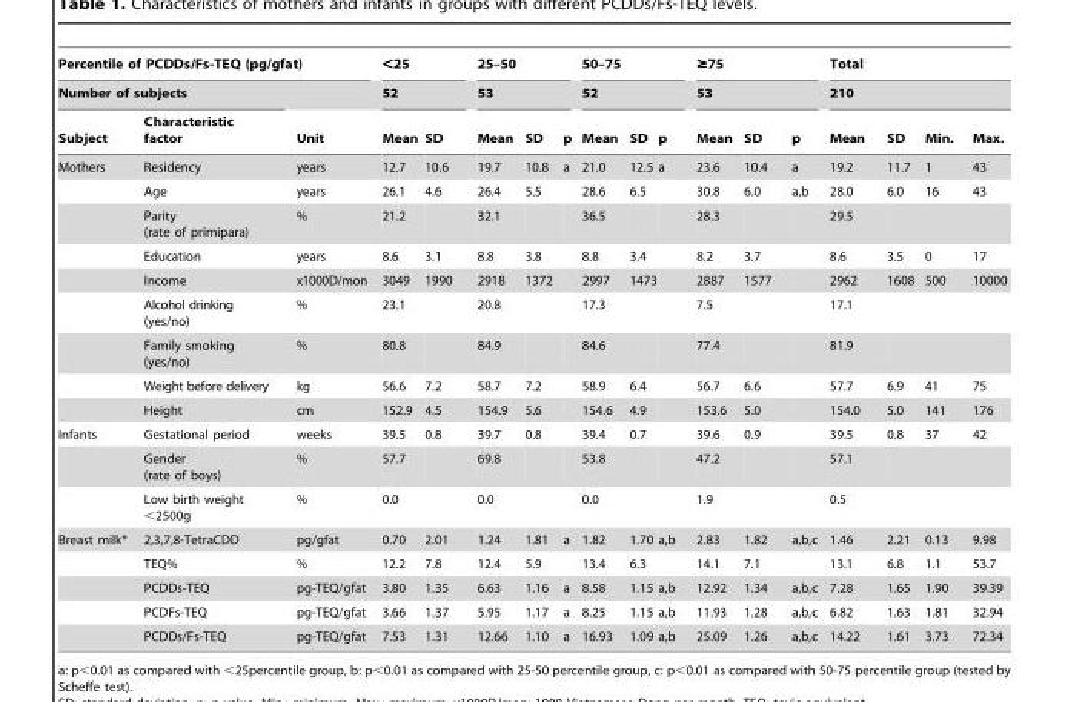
<table><thead><tr><td colspan="3">Percentile of PCDDs/Fs-TEQ (pg/gfat)</td><td rowspan="2" colspan="2">&lt;25 52</td><td rowspan="2" colspan="3">25–50 53</td><td rowspan="2" colspan="3">50–75 52</td><td rowspan="2" colspan="3">≥75 53</td><td rowspan="2" colspan="4">Total 210</td></tr><tr><td colspan="2">Number of subjects</td><td rowspan="2">Unit</td></tr><tr><td>Subject</td><td>Characteristic factor</td><td>Mean</td><td>SD</td><td>Mean</td><td>SD</td><td>p</td><td>Mean</td><td>SD</td><td>p</td><td>Mean</td><td>SD</td><td>p</td><td>Mean</td><td>SD</td><td>Min.</td><td>Max.</td></tr></thead><tbody><tr><td rowspan="9">Mothers</td><td>Residency</td><td>years</td><td>12.7</td><td>10.6</td><td>19.7</td><td>10.8</td><td>a</td><td>21.0</td><td>12.5</td><td>a</td><td>23.6</td><td>10.4</td><td>a</td><td>19.2</td><td>11.7</td><td>1</td><td>43</td></tr><tr><td>Age</td><td>years</td><td>26.1</td><td>4.6</td><td>26.4</td><td>5.5</td><td></td><td>28.6</td><td>6.5</td><td></td><td>30.8</td><td>6.0</td><td>a,b</td><td>28.0</td><td>6.0</td><td>16</td><td>43</td></tr><tr><td>Parity (rate of primipara)</td><td>%</td><td>21.2</td><td></td><td>32.1</td><td></td><td></td><td>36.5</td><td></td><td></td><td>28.3</td><td></td><td></td><td>29.5</td><td></td><td></td><td></td></tr><tr><td>Education</td><td>years</td><td>8.6</td><td>3.1</td><td>8.8</td><td>3.8</td><td></td><td>8.8</td><td>3.4</td><td></td><td>8.2</td><td>3.7</td><td></td><td>8.6</td><td>3.5</td><td>0</td><td>17</td></tr><tr><td>Income</td><td>x1000D/mon</td><td>3049</td><td>1990</td><td>2918</td><td>1372</td><td></td><td>2997</td><td>1473</td><td></td><td>2887</td><td>1577</td><td></td><td>2962</td><td>1608</td><td>500</td><td>10000</td></tr><tr><td>Alcohol drinking (yes/no)</td><td>%</td><td>23.1</td><td></td><td>20.8</td><td></td><td></td><td>17.3</td><td></td><td></td><td>7.5</td><td></td><td></td><td>17.1</td><td></td><td></td><td></td></tr><tr><td>Family smoking (yes/no)</td><td>%</td><td>80.8</td><td></td><td>84.9</td><td></td><td></td><td>84.6</td><td></td><td></td><td>77.4</td><td></td><td></td><td>81.9</td><td></td><td></td><td></td></tr><tr><td>Weight before delivery</td><td>kg</td><td>56.6</td><td>7.2</td><td>58.7</td><td>7.2</td><td></td><td>58.9</td><td>6.4</td><td></td><td>56.7</td><td>6.6</td><td></td><td>57.7</td><td>6.9</td><td>41</td><td>75</td></tr><tr><td>Height</td><td>cm</td><td>152.9</td><td>4.5</td><td>154.9</td><td>5.6</td><td></td><td>154.6</td><td>4.9</td><td></td><td>153.6</td><td>5.0</td><td></td><td>154.0</td><td>5.0</td><td>141</td><td>176</td></tr><tr><td rowspan="3">Infants</td><td>Gestational period</td><td>weeks</td><td>39.5</td><td>0.8</td><td>39.7</td><td>0.8</td><td></td><td>39.4</td><td>0.7</td><td></td><td>39.6</td><td>0.9</td><td></td><td>39.5</td><td>0.8</td><td>37</td><td>42</td></tr><tr><td>Gender (rate of boys)</td><td>%</td><td>57.7</td><td></td><td>69.8</td><td></td><td></td><td>53.8</td><td></td><td></td><td>47.2</td><td></td><td></td><td>57.1</td><td></td><td></td><td></td></tr><tr><td>Low birth weight &lt;2500g</td><td>%</td><td>0.0</td><td></td><td>0.0</td><td></td><td></td><td>0.0</td><td></td><td></td><td>1.9</td><td></td><td></td><td>0.5</td><td></td><td></td><td></td></tr><tr><td rowspan="5">Breast milk*</td><td>2,3,7,8-TetraCDD</td><td>pg/gfat</td><td>0.70</td><td>2.01</td><td>1.24</td><td>1.81</td><td>a</td><td>1.82</td><td>1.70</td><td>a,b</td><td>2.83</td><td>1.82</td><td>a,b,c</td><td>1.46</td><td>2.21</td><td>0.13</td><td>9.98</td></tr><tr><td>TEQ%</td><td>%</td><td>12.2</td><td>7.8</td><td>12.4</td><td>5.9</td><td></td><td>13.4</td><td>6.3</td><td></td><td>14.1</td><td>7.1</td><td></td><td>13.1</td><td>6.8</td><td>1.1</td><td>53.7</td></tr><tr><td>PCDDs-TEQ</td><td>pg-TEQ/gfat</td><td>3.80</td><td>1.35</td><td>6.63</td><td>1.16</td><td>a</td><td>8.58</td><td>1.15</td><td>a,b</td><td>12.92</td><td>1.34</td><td>a,b,c</td><td>7.28</td><td>1.65</td><td>1.90</td><td>39.39</td></tr><tr><td>PCDFs-TEQ</td><td>pg-TEQ/gfat</td><td>3.66</td><td>1.37</td><td>5.95</td><td>1.17</td><td>a</td><td>8.25</td><td>1.15</td><td>a,b</td><td>11.93</td><td>1.28</td><td>a,b,c</td><td>6.82</td><td>1.63</td><td>1.81</td><td>32.94</td></tr><tr><td>PCDDs/Fs-TEQ</td><td>pg-TEQ/gfat</td><td>7.53</td><td>1.31</td><td>12.66</td><td>1.10</td><td>a</td><td>16.93</td><td>1.09</td><td>a,b</td><td>25.09</td><td>1.26</td><td>a,b,c</td><td>14.22</td><td>1.61</td><td>3.73</td><td>72.34</td></tr></tbody></table>